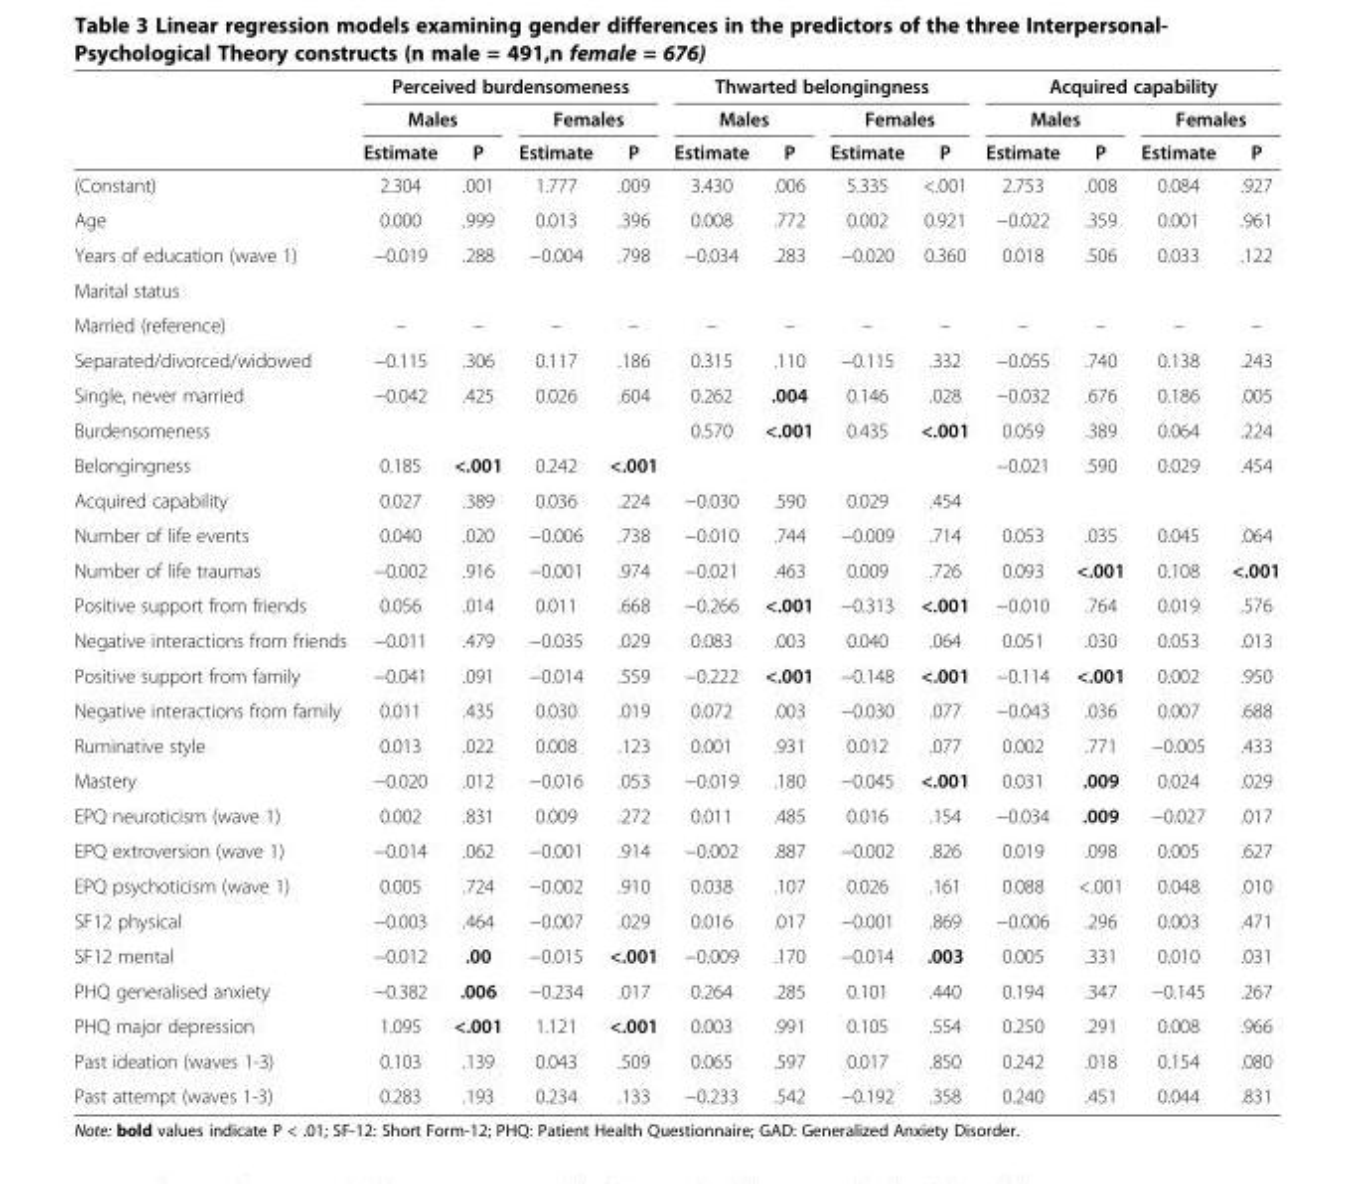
<table><thead><tr><td rowspan="3"></td><td colspan="4">Perceived burdensomeness</td><td colspan="4">Thwarted belongingness</td><td colspan="4">Acquired capability</td></tr><tr><td colspan="2">Males</td><td colspan="2">Females</td><td colspan="2">Males</td><td colspan="2">Females</td><td colspan="2">Males</td><td colspan="2">Females</td></tr><tr><td>Estimate</td><td>P</td><td>Estimate</td><td>P</td><td>Estimate</td><td>P</td><td>Estimate</td><td>P</td><td>Estimate</td><td>P</td><td>Estimate</td><td>P</td></tr></thead><tbody><tr><td>(Constant)</td><td>2.304</td><td>.001</td><td>1.777</td><td>.009</td><td>3.430</td><td>.006</td><td>5.335</td><td>&lt;.001</td><td>2.753</td><td>.008</td><td>0.084</td><td>.927</td></tr><tr><td>Age</td><td>0.000</td><td>.999</td><td>0.013</td><td>.396</td><td>0.008</td><td>.772</td><td>0.002</td><td>0.921</td><td>−0.022</td><td>.359</td><td>0.001</td><td>.961</td></tr><tr><td>Years of education (wave 1)</td><td>−0.019</td><td>.288</td><td>−0.004</td><td>.798</td><td>−0.034</td><td>.283</td><td>−0.020</td><td>0.360</td><td>0.018</td><td>.506</td><td>0.033</td><td>.122</td></tr><tr><td colspan="13">Marital status</td></tr><tr><td>Married (reference)</td><td>–</td><td>–</td><td>–</td><td>–</td><td>–</td><td>–</td><td>–</td><td>–</td><td>–</td><td>–</td><td>–</td><td>–</td></tr><tr><td>Separated/divorced/widowed</td><td>−0.115</td><td>.306</td><td>0.117</td><td>.186</td><td>0.315</td><td>.110</td><td>−0.115</td><td>.332</td><td>−0.055</td><td>.740</td><td>0.138</td><td>.243</td></tr><tr><td>Single, never married</td><td>−0.042</td><td>.425</td><td>0.026</td><td>.604</td><td>0.262</td><td>.004</td><td>0.146</td><td>.028</td><td>−0.032</td><td>.676</td><td>0.186</td><td>.005</td></tr><tr><td>Burdensomeness</td><td></td><td></td><td></td><td></td><td>0.570</td><td>&lt;.001</td><td>0.435</td><td>&lt;.001</td><td>0.059</td><td>.389</td><td>0.064</td><td>.224</td></tr><tr><td>Belongingness</td><td>0.185</td><td>&lt;.001</td><td>0.242</td><td>&lt;.001</td><td></td><td></td><td></td><td></td><td>−0.021</td><td>.590</td><td>0.029</td><td>.454</td></tr><tr><td>Acquired capability</td><td>0.027</td><td>.389</td><td>0.036</td><td>.224</td><td>−0.030</td><td>.590</td><td>0.029</td><td>.454</td><td></td><td></td><td></td><td></td></tr><tr><td>Number of life events</td><td>0.040</td><td>.020</td><td>−0.006</td><td>.738</td><td>−0.010</td><td>.744</td><td>−0.009</td><td>.714</td><td>0.053</td><td>.035</td><td>0.045</td><td>.064</td></tr><tr><td>Number of life traumas</td><td>−0.002</td><td>.916</td><td>−0.001</td><td>.974</td><td>−0.021</td><td>.463</td><td>0.009</td><td>.726</td><td>0.093</td><td>&lt;.001</td><td>0.108</td><td>&lt;.001</td></tr><tr><td>Positive support from friends</td><td>0.056</td><td>.014</td><td>0.011</td><td>.668</td><td>−0.266</td><td>&lt;.001</td><td>−0.313</td><td>&lt;.001</td><td>−0.010</td><td>.764</td><td>0.019</td><td>.576</td></tr><tr><td>Negative interactions from friends</td><td>−0.011</td><td>.479</td><td>−0.035</td><td>.029</td><td>0.083</td><td>.003</td><td>0.040</td><td>.064</td><td>0.051</td><td>.030</td><td>0.053</td><td>.013</td></tr><tr><td>Positive support from family</td><td>−0.041</td><td>.091</td><td>−0.014</td><td>.559</td><td>−0.222</td><td>&lt;.001</td><td>−0.148</td><td>&lt;.001</td><td>−0.114</td><td>&lt;.001</td><td>0.002</td><td>.950</td></tr><tr><td>Negative interactions from family</td><td>0.011</td><td>.435</td><td>0.030</td><td>.019</td><td>0.072</td><td>.003</td><td>−0.030</td><td>.077</td><td>−0.043</td><td>.036</td><td>0.007</td><td>.688</td></tr><tr><td>Ruminative style</td><td>0.013</td><td>.022</td><td>0.008</td><td>.123</td><td>0.001</td><td>.931</td><td>0.012</td><td>.077</td><td>0.002</td><td>.771</td><td>−0.005</td><td>.433</td></tr><tr><td>Mastery</td><td>−0.020</td><td>.012</td><td>−0.016</td><td>.053</td><td>−0.019</td><td>.180</td><td>−0.045</td><td>&lt;.001</td><td>0.031</td><td>.009</td><td>0.024</td><td>.029</td></tr><tr><td>EPQ neuroticism (wave 1)</td><td>0.002</td><td>.831</td><td>0.009</td><td>.272</td><td>0.011</td><td>.485</td><td>0.016</td><td>.154</td><td>−0.034</td><td>.009</td><td>−0.027</td><td>.017</td></tr><tr><td>EPQ extroversion (wave 1)</td><td>−0.014</td><td>.062</td><td>−0.001</td><td>.914</td><td>−0.002</td><td>.887</td><td>−0.002</td><td>.826</td><td>0.019</td><td>.098</td><td>0.005</td><td>.627</td></tr><tr><td>EPQ psychoticism (wave 1)</td><td>0.005</td><td>.724</td><td>−0.002</td><td>.910</td><td>0.038</td><td>.107</td><td>0.026</td><td>.161</td><td>0.088</td><td>&lt;.001</td><td>0.048</td><td>.010</td></tr><tr><td>SF12 physical</td><td>−0.003</td><td>.464</td><td>−0.007</td><td>.029</td><td>0.016</td><td>.017</td><td>−0.001</td><td>.869</td><td>−0.006</td><td>.296</td><td>0.003</td><td>.471</td></tr><tr><td>SF12 mental</td><td>−0.012</td><td>.00</td><td>−0.015</td><td>&lt;.001</td><td>−0.009</td><td>.170</td><td>−0.014</td><td>.003</td><td>0.005</td><td>.331</td><td>0.010</td><td>.031</td></tr><tr><td>PHQ generalised anxiety</td><td>−0.382</td><td>.006</td><td>−0.234</td><td>.017</td><td>0.264</td><td>.285</td><td>0.101</td><td>.440</td><td>0.194</td><td>.347</td><td>−0.145</td><td>.267</td></tr><tr><td>PHQ major depression</td><td>1.095</td><td>&lt;.001</td><td>1.121</td><td>&lt;.001</td><td>0.003</td><td>.991</td><td>0.105</td><td>.554</td><td>0.250</td><td>.291</td><td>0.008</td><td>.966</td></tr><tr><td>Past ideation (waves 1-3)</td><td>0.103</td><td>.139</td><td>0.043</td><td>.509</td><td>0.065</td><td>.597</td><td>0.017</td><td>.850</td><td>0.242</td><td>.018</td><td>0.154</td><td>.080</td></tr><tr><td>Past attempt (waves 1-3)</td><td>0.283</td><td>.193</td><td>0.234</td><td>.133</td><td>−0.233</td><td>.542</td><td>−0.192</td><td>.358</td><td>0.240</td><td>.451</td><td>0.044</td><td>.831</td></tr></tbody></table>